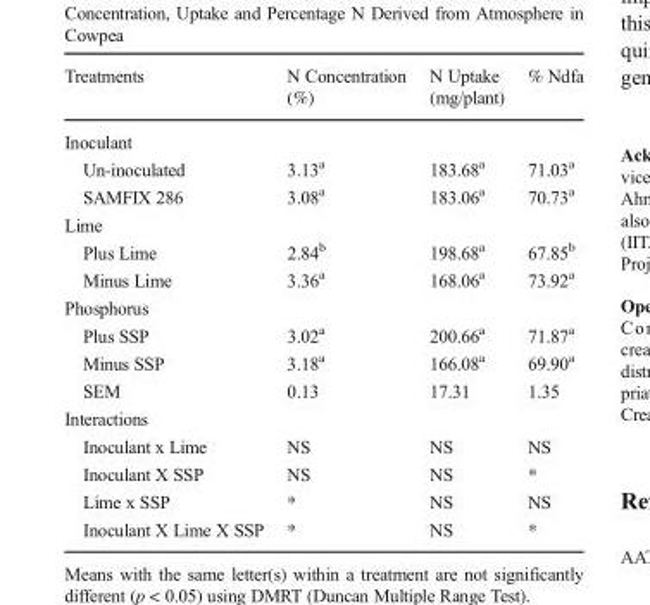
<table><thead><tr><td>Treatments</td><td>N Concentration (%)</td><td>N Uptake (mg/plant)</td><td>% Ndfa</td></tr></thead><tbody><tr><td colspan="4">Inoculant</td></tr><tr><td>Un-inoculated</td><td>3.13<sup>a</sup></td><td>183.68<sup>a</sup></td><td>71.03<sup>a</sup></td></tr><tr><td>SAMFIX 286</td><td>3.08<sup>a</sup></td><td>183.06<sup>a</sup></td><td>70.73<sup>a</sup></td></tr><tr><td colspan="4">Lime</td></tr><tr><td>Plus Lime</td><td>2.84<sup>b</sup></td><td>198.68<sup>a</sup></td><td>67.85<sup>b</sup></td></tr><tr><td>Minus Lime</td><td>3.36<sup>a</sup></td><td>168.06<sup>a</sup></td><td>73.92<sup>a</sup></td></tr><tr><td colspan="4">Phosphorus</td></tr><tr><td>Plus SSP</td><td>3.02<sup>a</sup></td><td>200.66<sup>a</sup></td><td>71.87<sup>a</sup></td></tr><tr><td>Minus SSP</td><td>3.18<sup>a</sup></td><td>166.08<sup>a</sup></td><td>69.90<sup>a</sup></td></tr><tr><td>SEM</td><td>0.13</td><td>17.31</td><td>1.35</td></tr><tr><td colspan="4">Interactions</td></tr><tr><td>Inoculant x Lime</td><td>NS</td><td>NS</td><td>NS</td></tr><tr><td>Inoculant X SSP</td><td>NS</td><td>NS</td><td>*</td></tr><tr><td>Lime x SSP</td><td>*</td><td>NS</td><td>NS</td></tr><tr><td>Inoculant X Lime X SSP</td><td>*</td><td>NS</td><td>*</td></tr></tbody></table>